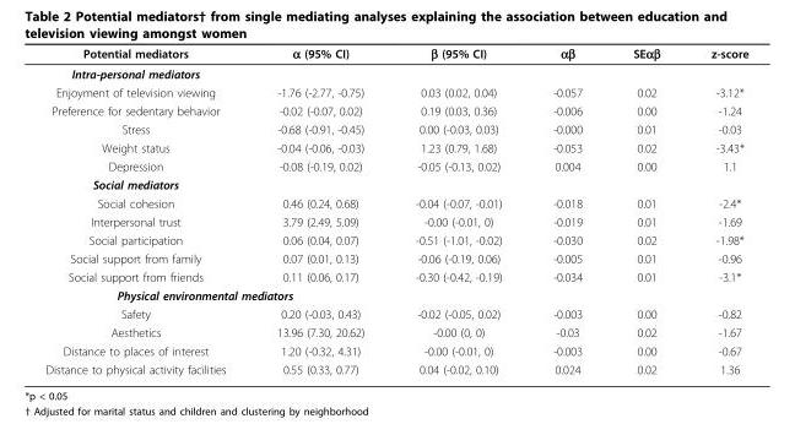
<table><thead><tr><td>Potential mediators</td><td>α (95% CI)</td><td>β (95% CI)</td><td>αβ</td><td>SEαβ</td><td>z-score</td></tr></thead><tbody><tr><td colspan="6">Intra-personal mediators</td></tr><tr><td>Enjoyment of television viewing</td><td>-1.76 (-2.77, -0.75)</td><td>0.03 (0.02, 0.04)</td><td>-0.057</td><td>0.02</td><td>-3.12*</td></tr><tr><td>Preference for sedentary behavior</td><td>-0.02 (-0.07, 0.02)</td><td>0.19 (0.03, 0.36)</td><td>-0.006</td><td>0.00</td><td>-1.24</td></tr><tr><td>Stress</td><td>-0.68 (-0.91, -0.45)</td><td>0.00 (-0.03, 0.03)</td><td>-0.000</td><td>0.01</td><td>-0.03</td></tr><tr><td>Weight status</td><td>-0.04 (-0.06, -0.03)</td><td>1.23 (0.79, 1.68)</td><td>-0.053</td><td>0.02</td><td>-3.43*</td></tr><tr><td>Depression</td><td>-0.08 (-0.19, 0.02)</td><td>-0.05 (-0.13, 0.02)</td><td>0.004</td><td>0.00</td><td>1.1</td></tr><tr><td colspan="6">Social mediators</td></tr><tr><td>Social cohesion</td><td>0.46 (0.24, 0.68)</td><td>-0.04 (-0.07, -0.01)</td><td>-0.018</td><td>0.01</td><td>-2.4*</td></tr><tr><td>Interpersonal trust</td><td>3.79 (2.49, 5.09)</td><td>-0.00 (-0.01, 0)</td><td>-0.019</td><td>0.01</td><td>-1.69</td></tr><tr><td>Social participation</td><td>0.06 (0.04, 0.07)</td><td>-0.51 (-1.01, -0.02)</td><td>-0.030</td><td>0.02</td><td>-1.98*</td></tr><tr><td>Social support from family</td><td>0.07 (0.01, 0.13)</td><td>-0.06 (-0.19, 0.06)</td><td>-0.005</td><td>0.01</td><td>-0.96</td></tr><tr><td>Social support from friends</td><td>0.11 (0.06, 0.17)</td><td>-0.30 (-0.42, -0.19)</td><td>-0.034</td><td>0.01</td><td>-3.1*</td></tr><tr><td colspan="6">Physical environmental mediators</td></tr><tr><td>Safety</td><td>0.20 (-0.03, 0.43)</td><td>-0.02 (-0.05, 0.02)</td><td>-0.003</td><td>0.00</td><td>-0.82</td></tr><tr><td>Aesthetics</td><td>13.96 (7.30, 20.62)</td><td>-0.00 (0, 0)</td><td>-0.03</td><td>0.02</td><td>-1.67</td></tr><tr><td>Distance to places of interest</td><td>1.20 (-0.32, 4.31)</td><td>-0.00 (-0.01, 0)</td><td>-0.003</td><td>0.00</td><td>-0.67</td></tr><tr><td>Distance to physical activity facilities</td><td>0.55 (0.33, 0.77)</td><td>0.04 (-0.02, 0.10)</td><td>0.024</td><td>0.02</td><td>1.36</td></tr></tbody></table>